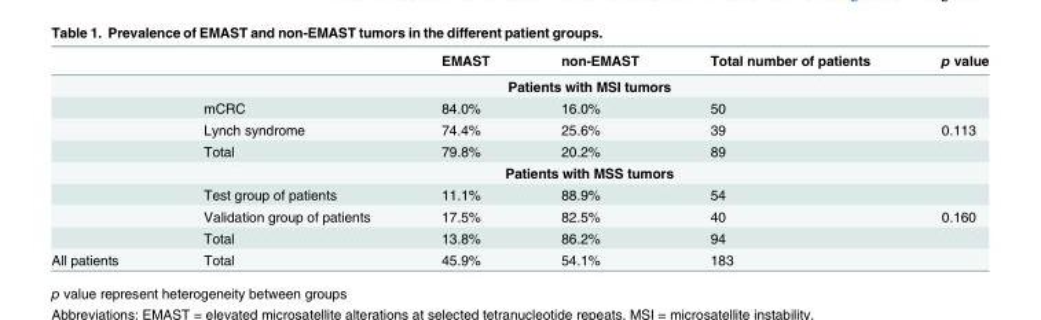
<table><thead><tr><td></td><td></td><td>EMAST</td><td>non-EMAST</td><td>Total number of patients</td><td>p value</td></tr></thead><tbody><tr><td></td><td colspan="5">Patients with MSI tumors</td></tr><tr><td></td><td>mCRC</td><td>84.0%</td><td>16.0%</td><td>50</td><td></td></tr><tr><td></td><td>Lynch syndrome</td><td>74.4%</td><td>25.6%</td><td>39</td><td>0.113</td></tr><tr><td></td><td>Total</td><td>79.8%</td><td>20.2%</td><td>89</td><td></td></tr><tr><td></td><td colspan="5">Patients with MSS tumors</td></tr><tr><td></td><td>Test group of patients</td><td>11.1%</td><td>88.9%</td><td>54</td><td></td></tr><tr><td></td><td>Validation group of patients</td><td>17.5%</td><td>82.5%</td><td>40</td><td>0.160</td></tr><tr><td></td><td>Total</td><td>13.8%</td><td>86.2%</td><td>94</td><td></td></tr><tr><td>All patients</td><td>Total</td><td>45.9%</td><td>54.1%</td><td>183</td><td></td></tr></tbody></table>